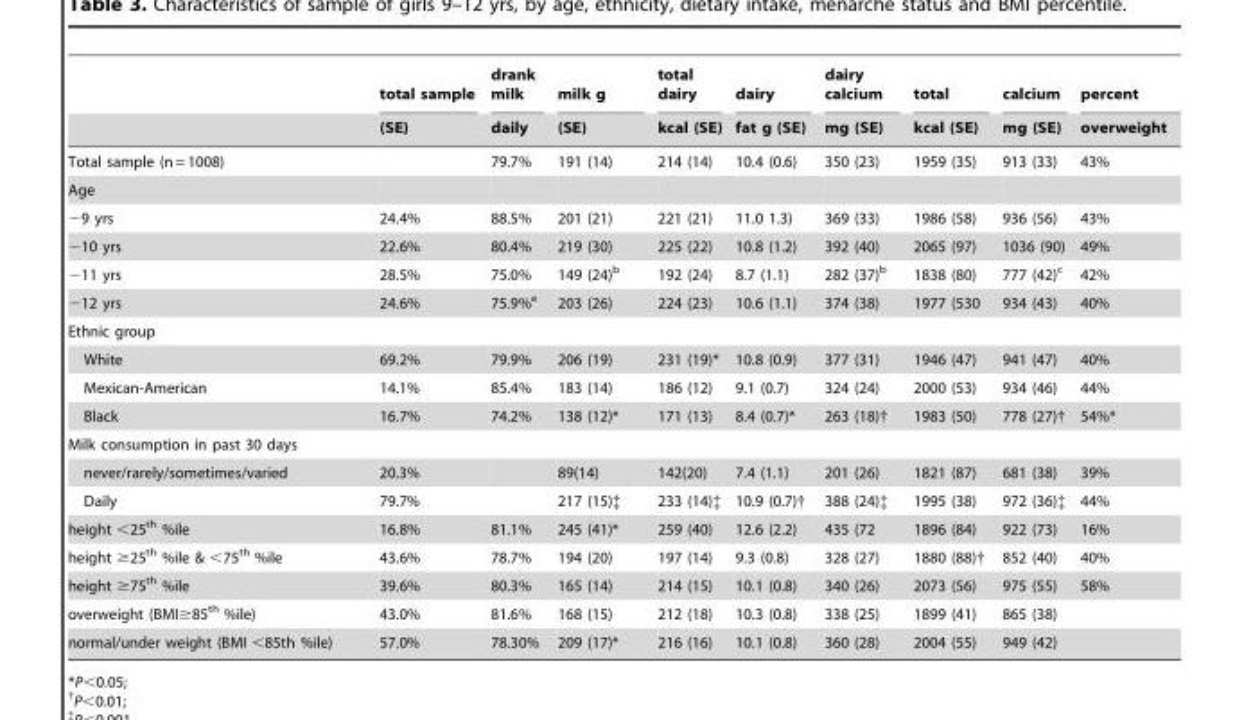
<table><thead><tr><td rowspan="2"></td><td rowspan="2">total sample (SE)</td><td rowspan="2">drank milk daily</td><td rowspan="2">milk g (SE)</td><td rowspan="2">total dairy kcal (SE)</td><td rowspan="2">dairy fat g (SE)</td><td rowspan="2">dairy calcium mg (SE)</td><td rowspan="2">total kcal (SE)</td><td rowspan="2">calcium mg (SE)</td><td rowspan="2">percent overweight</td></tr><tr></tr></thead><tbody><tr><td>Total sample (n = 1008)</td><td></td><td>79.7%</td><td>191 (14)</td><td>214 (14)</td><td>10.4 (0.6)</td><td>350 (23)</td><td>1959 (35)</td><td>913 (33)</td><td>43%</td></tr><tr><td colspan="10">Age</td></tr><tr><td>−9 yrs</td><td>24.4%</td><td>88.5%</td><td>201 (21)</td><td>221 (21)</td><td>11.0 1.3)</td><td>369 (33)</td><td>1986 (58)</td><td>936 (56)</td><td>43%</td></tr><tr><td>−10 yrs</td><td>22.6%</td><td>80.4%</td><td>219 (30)</td><td>225 (22)</td><td>10.8 (1.2)</td><td>392 (40)</td><td>2065 (97)</td><td>1036 (90)</td><td>49%</td></tr><tr><td>−11 yrs</td><td>28.5%</td><td>75.0%</td><td>149 (24)<sup>b</sup></td><td>192 (24)</td><td>8.7 (1.1)</td><td>282 (37)<sup>b</sup></td><td>1838 (80)</td><td>777 (42)<sup>c</sup></td><td>42%</td></tr><tr><td>−12 yrs</td><td>24.6%</td><td>75.9%<sup>a</sup></td><td>203 (26)</td><td>224 (23)</td><td>10.6 (1.1)</td><td>374 (38)</td><td>1977 (530</td><td>934 (43)</td><td>40%</td></tr><tr><td colspan="10">Ethnic group</td></tr><tr><td>White</td><td>69.2%</td><td>79.9%</td><td>206 (19)</td><td>231 (19)*</td><td>10.8 (0.9)</td><td>377 (31)</td><td>1946 (47)</td><td>941 (47)</td><td>40%</td></tr><tr><td>Mexican-American</td><td>14.1%</td><td>85.4%</td><td>183 (14)</td><td>186 (12)</td><td>9.1 (0.7)</td><td>324 (24)</td><td>2000 (53)</td><td>934 (46)</td><td>44%</td></tr><tr><td>Black</td><td>16.7%</td><td>74.2%</td><td>138 (12)*</td><td>171 (13)</td><td>8.4 (0.7)*</td><td>263 (18)†</td><td>1983 (50)</td><td>778 (27)†</td><td>54%*</td></tr><tr><td colspan="10">Milk consumption in past 30 days</td></tr><tr><td>never/rarely/sometimes/varied</td><td>20.3%</td><td></td><td>89(14)</td><td>142(20)</td><td>7.4 (1.1)</td><td>201 (26)</td><td>1821 (87)</td><td>681 (38)</td><td>39%</td></tr><tr><td>Daily</td><td>79.7%</td><td></td><td>217 (15)‡</td><td>233 (14)‡</td><td>10.9 (0.7)†</td><td>388 (24)‡</td><td>1995 (38)</td><td>972 (36)‡</td><td>44%</td></tr><tr><td>height &lt;25<sup>th</sup> %ile</td><td>16.8%</td><td>81.1%</td><td>245 (41)*</td><td>259 (40)</td><td>12.6 (2.2)</td><td>435 (72</td><td>1896 (84)</td><td>922 (73)</td><td>16%</td></tr><tr><td>height ≥25<sup>th</sup> %ile &amp; &lt;75<sup>th</sup> %ile</td><td>43.6%</td><td>78.7%</td><td>194 (20)</td><td>197 (14)</td><td>9.3 (0.8)</td><td>328 (27)</td><td>1880 (88)†</td><td>852 (40)</td><td>40%</td></tr><tr><td>height ≥75<sup>th</sup> %ile</td><td>39.6%</td><td>80.3%</td><td>165 (14)</td><td>214 (15)</td><td>10.1 (0.8)</td><td>340 (26)</td><td>2073 (56)</td><td>975 (55)</td><td>58%</td></tr><tr><td>overweight (BMI≥85<sup>th</sup> %ile)</td><td>43.0%</td><td>81.6%</td><td>168 (15)</td><td>212 (18)</td><td>10.3 (0.8)</td><td>338 (25)</td><td>1899 (41)</td><td>865 (38)</td><td></td></tr><tr><td>normal/under weight (BMI &lt;85th %ile)</td><td>57.0%</td><td>78.30%</td><td>209 (17)*</td><td>216 (16)</td><td>10.1 (0.8)</td><td>360 (28)</td><td>2004 (55)</td><td>949 (42)</td><td></td></tr></tbody></table>